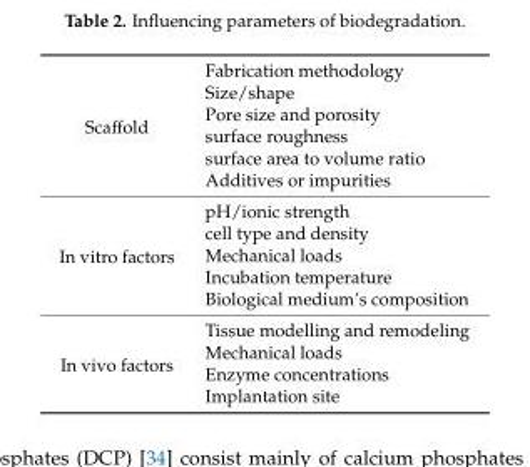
<table><tbody><tr><td rowspan="6">Scaffold</td><td>Fabrication methodology</td></tr><tr><td>Size/shape</td></tr><tr><td>Pore size and porosity</td></tr><tr><td>surface roughness</td></tr><tr><td>surface area to volume ratio</td></tr><tr><td>Additives or impurities</td></tr><tr><td rowspan="5">In vitro factors</td><td>pH/ionic strength</td></tr><tr><td>cell type and density</td></tr><tr><td>Mechanical loads</td></tr><tr><td>Incubation temperature</td></tr><tr><td>Biological medium’s composition</td></tr><tr><td rowspan="4">In vivo factors</td><td>Tissue modelling and remodeling</td></tr><tr><td>Mechanical loads</td></tr><tr><td>Enzyme concentrations</td></tr><tr><td>Implantation site</td></tr></tbody></table>